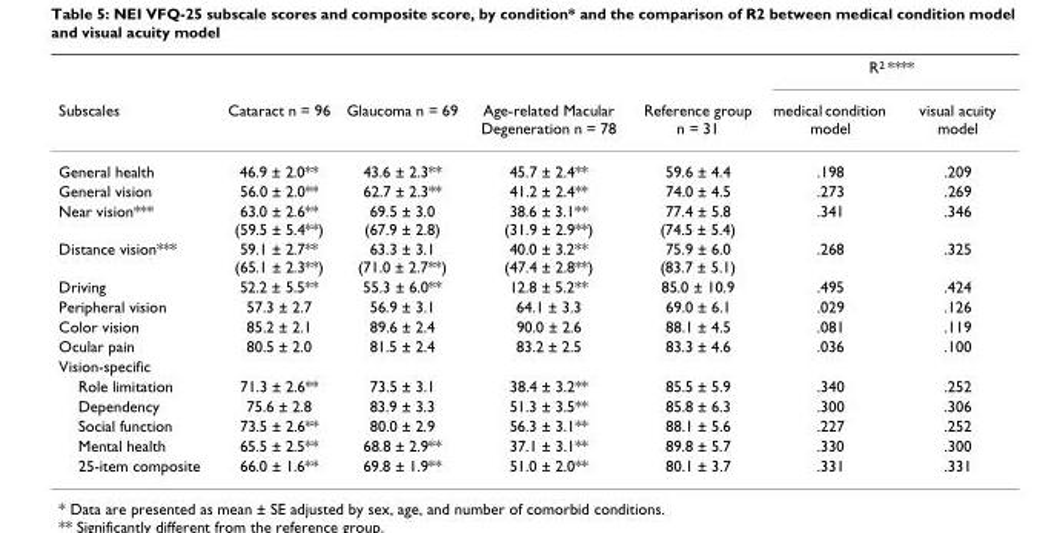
<table><thead><tr><td rowspan="2">Subscales</td><td rowspan="2">Cataract n = 96</td><td rowspan="2">Glaucoma n = 69</td><td rowspan="2">Age-related Macular Degeneration n = 78</td><td rowspan="2">Reference group n = 31</td><td colspan="2">R<sup>2</sup> ****</td></tr><tr><td>medical condition model</td><td>visual acuity model</td></tr></thead><tbody><tr><td>General health</td><td>46.9 ± 2.0**</td><td>43.6 ± 2.3**</td><td>45.7 ± 2.4**</td><td>59.6 ± 4.4</td><td>.198</td><td>.209</td></tr><tr><td>General vision</td><td>56.0 ± 2.0**</td><td>62.7 ± 2.3**</td><td>41.2 ± 2.4**</td><td>74.0 ± 4.5</td><td>.273</td><td>.269</td></tr><tr><td>Near vision***</td><td>63.0 ± 2.6** (59.5 ± 5.4**)</td><td>69.5 ± 3.0 (67.9 ± 2.8)</td><td>38.6 ± 3.1** (31.9 ± 2.9**)</td><td>77.4 ± 5.8 (74.5 ± 5.4)</td><td>.341</td><td>.346</td></tr><tr><td>Distance vision***</td><td>59.1 ± 2.7** (65.1 ± 2.3**)</td><td>63.3 ± 3.1 (71.0 ± 2.7**)</td><td>40.0 ± 3.2** (47.4 ± 2.8**)</td><td>75.9 ± 6.0 (83.7 ± 5.1)</td><td>.268</td><td>.325</td></tr><tr><td>Driving</td><td>52.2 ± 5.5**</td><td>55.3 ± 6.0**</td><td>12.8 ± 5.2**</td><td>85.0 ± 10.9</td><td>.495</td><td>.424</td></tr><tr><td>Peripheral vision</td><td>57.3 ± 2.7</td><td>56.9 ± 3.1</td><td>64.1 ± 3.3</td><td>69.0 ± 6.1</td><td>.029</td><td>.126</td></tr><tr><td>Color vision</td><td>85.2 ± 2.1</td><td>89.6 ± 2.4</td><td>90.0 ± 2.6</td><td>88.1 ± 4.5</td><td>.081</td><td>.119</td></tr><tr><td>Ocular pain</td><td>80.5 ± 2.0</td><td>81.5 ± 2.4</td><td>83.2 ± 2.5</td><td>83.3 ± 4.6</td><td>.036</td><td>.100</td></tr><tr><td colspan="7">Vision-specific</td></tr><tr><td>Role limitation</td><td>71.3 ± 2.6**</td><td>73.5 ± 3.1</td><td>38.4 ± 3.2**</td><td>85.5 ± 5.9</td><td>.340</td><td>.252</td></tr><tr><td>Dependency</td><td>75.6 ± 2.8</td><td>83.9 ± 3.3</td><td>51.3 ± 3.5**</td><td>85.8 ± 6.3</td><td>.300</td><td>.306</td></tr><tr><td>Social function</td><td>73.5 ± 2.6**</td><td>80.0 ± 2.9</td><td>56.3 ± 3.1**</td><td>88.1 ± 5.6</td><td>.227</td><td>.252</td></tr><tr><td>Mental health</td><td>65.5 ± 2.5**</td><td>68.8 ± 2.9**</td><td>37.1 ± 3.1**</td><td>89.8 ± 5.7</td><td>.330</td><td>.300</td></tr><tr><td>25-item composite</td><td>66.0 ± 1.6**</td><td>69.8 ± 1.9**</td><td>51.0 ± 2.0**</td><td>80.1 ± 3.7</td><td>.331</td><td>.331</td></tr></tbody></table>